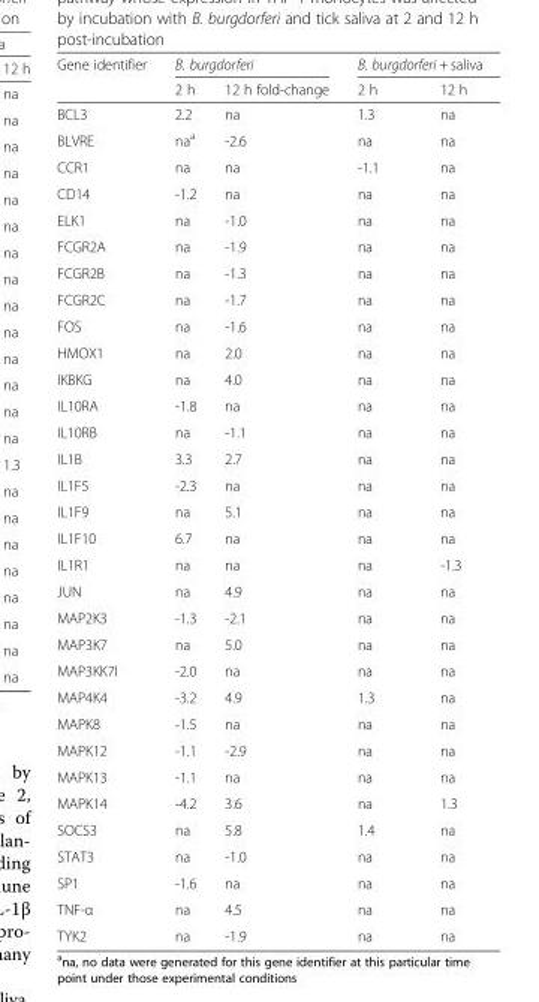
<table><thead><tr><td rowspan="2">Gene identifier</td><td colspan="2">B. burgdorferi</td><td colspan="2">B. burgdorferi + saliva</td></tr><tr><td>2 h</td><td>12 h fold-change</td><td>2 h</td><td>12 h</td></tr></thead><tbody><tr><td>BCL3</td><td>2.2</td><td>na</td><td>1.3</td><td>na</td></tr><tr><td>BLVRE</td><td>na<sup>a</sup></td><td>-2.6</td><td>na</td><td>na</td></tr><tr><td>CCR1</td><td>na</td><td>na</td><td>-1.1</td><td>na</td></tr><tr><td>CD14</td><td>-1.2</td><td>na</td><td>na</td><td>na</td></tr><tr><td>ELK1</td><td>na</td><td>-1.0</td><td>na</td><td>na</td></tr><tr><td>FCGR2A</td><td>na</td><td>-1.9</td><td>na</td><td>na</td></tr><tr><td>FCGR2B</td><td>na</td><td>-1.3</td><td>na</td><td>na</td></tr><tr><td>FCGR2C</td><td>na</td><td>-1.7</td><td>na</td><td>na</td></tr><tr><td>FOS</td><td>na</td><td>-1.6</td><td>na</td><td>na</td></tr><tr><td>HMOX1</td><td>na</td><td>2.0</td><td>na</td><td>na</td></tr><tr><td>IKBKG</td><td>na</td><td>4.0</td><td>na</td><td>na</td></tr><tr><td>IL10RA</td><td>-1.8</td><td>na</td><td>na</td><td>na</td></tr><tr><td>IL10RB</td><td>na</td><td>-1.1</td><td>na</td><td>na</td></tr><tr><td>IL1B</td><td>3.3</td><td>2.7</td><td>na</td><td>na</td></tr><tr><td>IL1F5</td><td>-2.3</td><td>na</td><td>na</td><td>na</td></tr><tr><td>IL1F9</td><td>na</td><td>5.1</td><td>na</td><td>na</td></tr><tr><td>IL1F10</td><td>6.7</td><td>na</td><td>na</td><td>na</td></tr><tr><td>IL1R1</td><td>na</td><td>na</td><td>na</td><td>-1.3</td></tr><tr><td>JUN</td><td>na</td><td>4.9</td><td>na</td><td>na</td></tr><tr><td>MAP2K3</td><td>-1.3</td><td>-2.1</td><td>na</td><td>na</td></tr><tr><td>MAP3K7</td><td>na</td><td>5.0</td><td>na</td><td>na</td></tr><tr><td>MAP3KK7I</td><td>-2.0</td><td>na</td><td>na</td><td>na</td></tr><tr><td>MAP4K4</td><td>-3.2</td><td>4.9</td><td>1.3</td><td>na</td></tr><tr><td>MAPK8</td><td>-1.5</td><td>na</td><td>na</td><td>na</td></tr><tr><td>MAPK12</td><td>-1.1</td><td>-2.9</td><td>na</td><td>na</td></tr><tr><td>MAPK13</td><td>-1.1</td><td>na</td><td>na</td><td>na</td></tr><tr><td>MAPK14</td><td>-4.2</td><td>3.6</td><td>na</td><td>1.3</td></tr><tr><td>SOCS3</td><td>na</td><td>5.8</td><td>1.4</td><td>na</td></tr><tr><td>STAT3</td><td>na</td><td>-1.0</td><td>na</td><td>na</td></tr><tr><td>SP1</td><td>-1.6</td><td>na</td><td>na</td><td>na</td></tr><tr><td>TNF-α</td><td>na</td><td>4.5</td><td>na</td><td>na</td></tr><tr><td>TYK2</td><td>na</td><td>-1.9</td><td>na</td><td>na</td></tr></tbody></table>